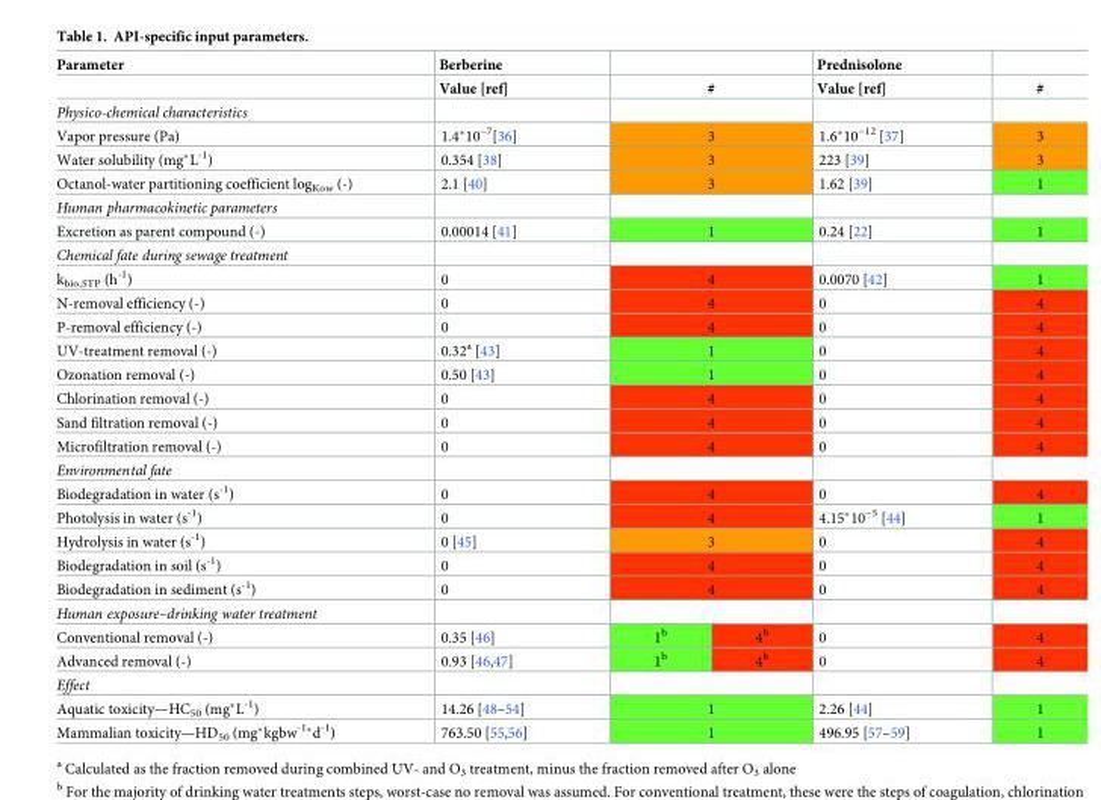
<table><thead><tr><td rowspan="2">Parameter</td><td rowspan="2">Berberine Value [ref]</td><td></td><td></td><td rowspan="2">Prednisolone Value [ref]</td><td rowspan="2">#</td></tr><tr><td colspan="2">#</td></tr></thead><tbody><tr><td colspan="6">Physico-chemical characteristics</td></tr><tr><td>Vapor pressure (Pa)</td><td>1.4*10<sup>−7</sup>[36]</td><td colspan="2">3</td><td>1.6*10<sup>−12</sup> [37]</td><td>3</td></tr><tr><td>Water solubility (mg*L<sup>-1</sup>)</td><td>0.354 [38]</td><td colspan="2">3</td><td>223 [39]</td><td>3</td></tr><tr><td>Octanol-water partitioning coefficient log<sub>Kow</sub> (-)</td><td>2.1 [40]</td><td colspan="2">3</td><td>1.62 [39]</td><td>1</td></tr><tr><td colspan="6">Human pharmacokinetic parameters</td></tr><tr><td>Excretion as parent compound (-)</td><td>0.00014 [41]</td><td colspan="2">1</td><td>0.24 [22]</td><td>1</td></tr><tr><td colspan="6">Chemical fate during sewage treatment</td></tr><tr><td>k<sub>bio,STP</sub> (h<sup>-1</sup>)</td><td>0</td><td colspan="2">4</td><td>0.0070 [42]</td><td>1</td></tr><tr><td>N-removal efficiency (-)</td><td>0</td><td colspan="2">4</td><td>0</td><td>4</td></tr><tr><td>P-removal efficiency (-)</td><td>0</td><td colspan="2">4</td><td>0</td><td>4</td></tr><tr><td>UV-treatment removal (-)</td><td>0.32<sup>a</sup> [43]</td><td colspan="2">1</td><td>0</td><td>4</td></tr><tr><td>Ozonation removal (-)</td><td>0.50 [43]</td><td colspan="2">1</td><td>0</td><td>4</td></tr><tr><td>Chlorination removal (-)</td><td>0</td><td colspan="2">4</td><td>0</td><td>4</td></tr><tr><td>Sand filtration removal (-)</td><td>0</td><td colspan="2">4</td><td>0</td><td>4</td></tr><tr><td>Microfiltration removal (-)</td><td>0</td><td colspan="2">4</td><td>0</td><td>4</td></tr><tr><td colspan="6">Environmental fate</td></tr><tr><td>Biodegradation in water (s<sup>-1</sup>)</td><td>0</td><td colspan="2">4</td><td>0</td><td>4</td></tr><tr><td>Photolysis in water (s<sup>-1</sup>)</td><td>0</td><td colspan="2">4</td><td>4.15*10<sup>−5</sup> [44]</td><td>1</td></tr><tr><td>Hydrolysis in water (s<sup>-1</sup>)</td><td>0 [45]</td><td colspan="2">3</td><td>0</td><td>4</td></tr><tr><td>Biodegradation in soil (s<sup>-1</sup>)</td><td>0</td><td colspan="2">4</td><td>0</td><td>4</td></tr><tr><td>Biodegradation in sediment (s<sup>-1</sup>)</td><td>0</td><td colspan="2">4</td><td>0</td><td>4</td></tr><tr><td colspan="6">Human exposure–drinking water treatment</td></tr><tr><td>Conventional removal (-)</td><td>0.35 [46]</td><td>1<sup>b</sup></td><td>4<sup>b</sup></td><td>0</td><td>4</td></tr><tr><td>Advanced removal (-)</td><td>0.93 [46,47]</td><td>1<sup>b</sup></td><td>4<sup>b</sup></td><td>0</td><td>4</td></tr><tr><td colspan="6">Effect</td></tr><tr><td>Aquatic toxicity—HC<sub>50</sub> (mg*L<sup>-1</sup>)</td><td>14.26 [48–54]</td><td colspan="2">1</td><td>2.26 [44]</td><td>1</td></tr><tr><td>Mammalian toxicity—HD<sub>50</sub> (mg*kgbw<sup>-1</sup>*d<sup>-1</sup>)</td><td>763.50 [55,56]</td><td colspan="2">1</td><td>496.95 [57–59]</td><td>1</td></tr></tbody></table>